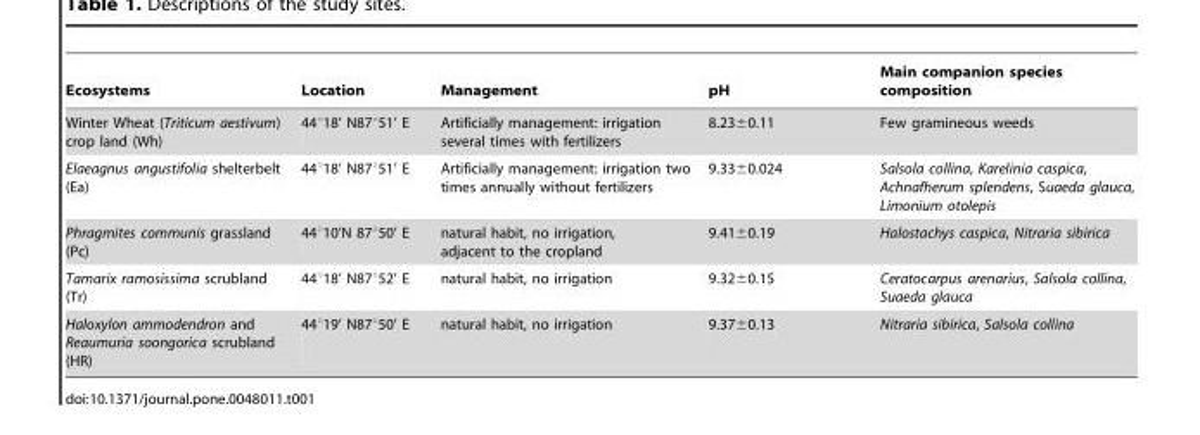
<table><thead><tr><td>Ecosystems</td><td>Location</td><td>Management</td><td>pH</td><td>Main companion species composition</td></tr></thead><tbody><tr><td>Winter Wheat (Triticum aestivum) crop land (Wh)</td><td>44°18’ N87°51’ E</td><td>Artificially management: irrigation several times with fertilizers</td><td>8.23±0.11</td><td>Few gramineous weeds</td></tr><tr><td>Elaeagnus angustifolia shelterbelt (Ea)</td><td>44°18’ N87°51’ E</td><td>Artificially management: irrigation two times annually without fertilizers</td><td>9.33±0.024</td><td>Salsola collina, Karelinia caspica, Achnafherum splendens, Suaeda glauca, Limonium otolepis</td></tr><tr><td>Phragmites communis grassland (Pc)</td><td>44°10’N 87°50’ E</td><td>natural habit, no irrigation, adjacent to the cropland</td><td>9.41±0.19</td><td>Halostachys caspica, Nitraria sibirica</td></tr><tr><td>Tamarix ramosissima scrubland (Tr)</td><td>44°18’ N87°52’ E</td><td>natural habit, no irrigation</td><td>9.32±0.15</td><td>Ceratocarpus arenarius, Salsola collina, Suaeda glauca</td></tr><tr><td>Haloxylon ammodendron and Reaumuria soongorica scrubland (HR)</td><td>44°19’ N87°50’ E</td><td>natural habit, no irrigation</td><td>9.37±0.13</td><td>Nitraria sibirica, Salsola collina</td></tr></tbody></table>